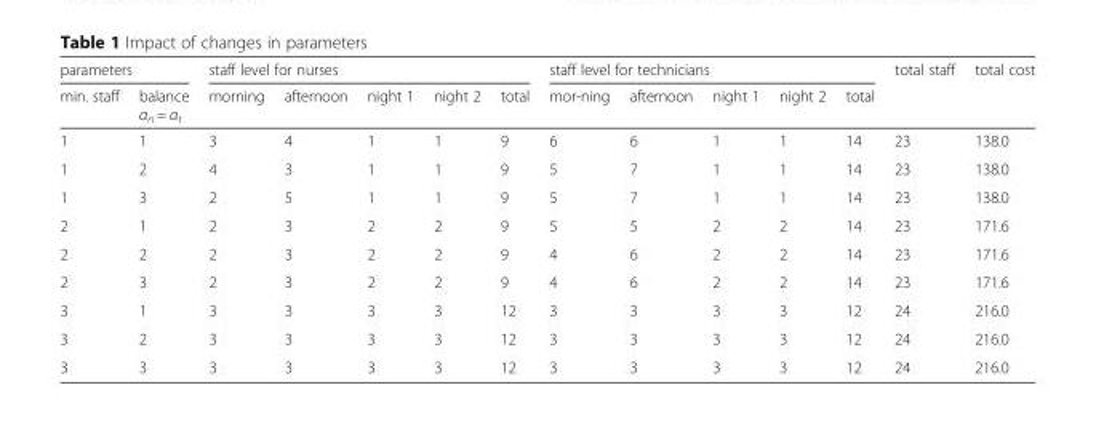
<table><thead><tr><td colspan="2">parameters</td><td colspan="5">staff level for nurses</td><td colspan="5">staff level for technicians</td><td rowspan="2">total staff</td><td rowspan="2">total cost</td></tr><tr><td>min. staff</td><td>balance α<sub>n</sub> = α<sub>t</sub></td><td>morning</td><td>afternoon</td><td>night 1</td><td>night 2</td><td>total</td><td>mor-ning</td><td>afternoon</td><td>night 1</td><td>night 2</td><td>total</td></tr></thead><tbody><tr><td>1</td><td>1</td><td>3</td><td>4</td><td>1</td><td>1</td><td>9</td><td>6</td><td>6</td><td>1</td><td>1</td><td>14</td><td>23</td><td>138.0</td></tr><tr><td>1</td><td>2</td><td>4</td><td>3</td><td>1</td><td>1</td><td>9</td><td>5</td><td>7</td><td>1</td><td>1</td><td>14</td><td>23</td><td>138.0</td></tr><tr><td>1</td><td>3</td><td>2</td><td>5</td><td>1</td><td>1</td><td>9</td><td>5</td><td>7</td><td>1</td><td>1</td><td>14</td><td>23</td><td>138.0</td></tr><tr><td>2</td><td>1</td><td>2</td><td>3</td><td>2</td><td>2</td><td>9</td><td>5</td><td>5</td><td>2</td><td>2</td><td>14</td><td>23</td><td>171.6</td></tr><tr><td>2</td><td>2</td><td>2</td><td>3</td><td>2</td><td>2</td><td>9</td><td>4</td><td>6</td><td>2</td><td>2</td><td>14</td><td>23</td><td>171.6</td></tr><tr><td>2</td><td>3</td><td>2</td><td>3</td><td>2</td><td>2</td><td>9</td><td>4</td><td>6</td><td>2</td><td>2</td><td>14</td><td>23</td><td>171.6</td></tr><tr><td>3</td><td>1</td><td>3</td><td>3</td><td>3</td><td>3</td><td>12</td><td>3</td><td>3</td><td>3</td><td>3</td><td>12</td><td>24</td><td>216.0</td></tr><tr><td>3</td><td>2</td><td>3</td><td>3</td><td>3</td><td>3</td><td>12</td><td>3</td><td>3</td><td>3</td><td>3</td><td>12</td><td>24</td><td>216.0</td></tr><tr><td>3</td><td>3</td><td>3</td><td>3</td><td>3</td><td>3</td><td>12</td><td>3</td><td>3</td><td>3</td><td>3</td><td>12</td><td>24</td><td>216.0</td></tr></tbody></table>